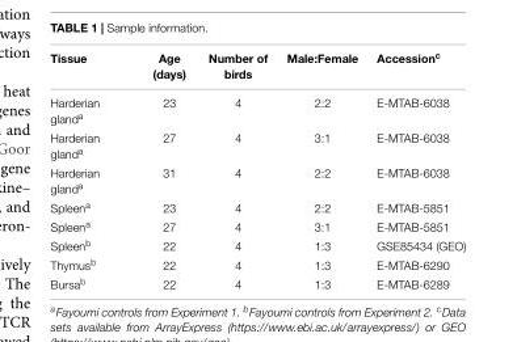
<table><thead><tr><td>Tissue</td><td>Age (days)</td><td>Number of birds</td><td>Male:Female</td><td>Accession<sup>c</sup></td></tr></thead><tbody><tr><td>Harderian gland<sup>a</sup></td><td>23</td><td>4</td><td>2:2</td><td>E-MTAB-6038</td></tr><tr><td>Harderian gland<sup>a</sup></td><td>27</td><td>4</td><td>3:1</td><td>E-MTAB-6038</td></tr><tr><td>Harderian gland<sup>a</sup></td><td>31</td><td>4</td><td>2:2</td><td>E-MTAB-6038</td></tr><tr><td>Spleen<sup>a</sup></td><td>23</td><td>4</td><td>2:2</td><td>E-MTAB-5851</td></tr><tr><td>Spleen<sup>a</sup></td><td>27</td><td>4</td><td>3:1</td><td>E-MTAB-5851</td></tr><tr><td>Spleen<sup>b</sup></td><td>22</td><td>4</td><td>1:3</td><td>GSE85434 (GEO)</td></tr><tr><td>Thymus<sup>b</sup></td><td>22</td><td>4</td><td>1:3</td><td>E-MTAB-6290</td></tr><tr><td>Bursa<sup>b</sup></td><td>22</td><td>4</td><td>1:3</td><td>E-MTAB-6289</td></tr></tbody></table>